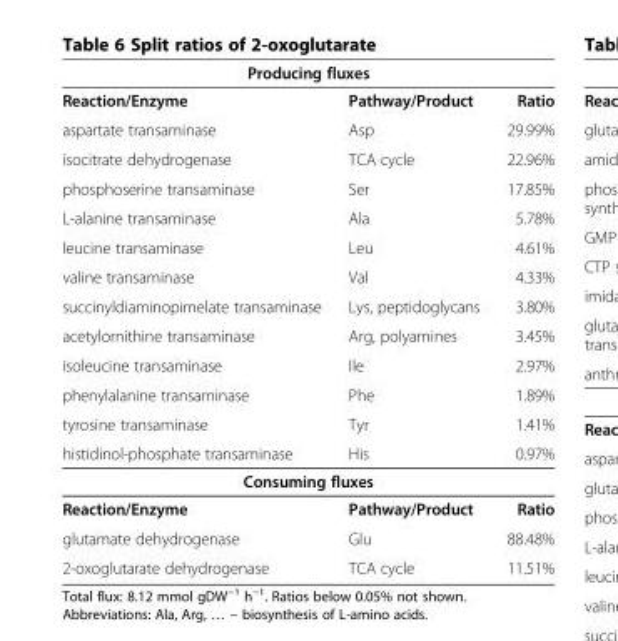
<table><tbody><tr><td colspan="3">Producing fluxes</td></tr><tr><td>Reaction/Enzyme</td><td>Pathway/Product</td><td>Ratio</td></tr><tr><td>aspartate transaminase</td><td>Asp</td><td>29.99%</td></tr><tr><td>isocitrate dehydrogenase</td><td>TCA cycle</td><td>22.96%</td></tr><tr><td>phosphoserine transaminase</td><td>Ser</td><td>17.85%</td></tr><tr><td>L-alanine transaminase</td><td>Ala</td><td>5.78%</td></tr><tr><td>leucine transaminase</td><td>Leu</td><td>4.61%</td></tr><tr><td>valine transaminase</td><td>Val</td><td>4.33%</td></tr><tr><td>succinyldiaminopimelate transaminase</td><td>Lys, peptidoglycans</td><td>3.80%</td></tr><tr><td>acetylornithine transaminase</td><td>Arg, polyamines</td><td>3.45%</td></tr><tr><td>isoleucine transaminase</td><td>Ile</td><td>2.97%</td></tr><tr><td>phenylalanine transaminase</td><td>Phe</td><td>1.89%</td></tr><tr><td>tyrosine transaminase</td><td>Tyr</td><td>1.41%</td></tr><tr><td>histidinol-phosphate transaminase</td><td>His</td><td>0.97%</td></tr><tr><td colspan="3">Consuming fluxes</td></tr><tr><td>Reaction/Enzyme</td><td>Pathway/Product</td><td>Ratio</td></tr><tr><td>glutamate dehydrogenase</td><td>Glu</td><td>88.48%</td></tr><tr><td>2-oxoglutarate dehydrogenase</td><td>TCA cycle</td><td>11.51%</td></tr></tbody></table>